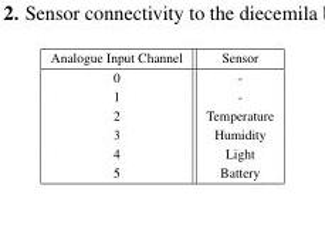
<table><thead><tr><td>Analogue Input Channel</td><td>Sensor</td></tr></thead><tbody><tr><td>0</td><td>-</td></tr><tr><td>1</td><td>-</td></tr><tr><td>2</td><td>Temperature</td></tr><tr><td>3</td><td>Humidity</td></tr><tr><td>4</td><td>Light</td></tr><tr><td>5</td><td>Battery</td></tr></tbody></table>